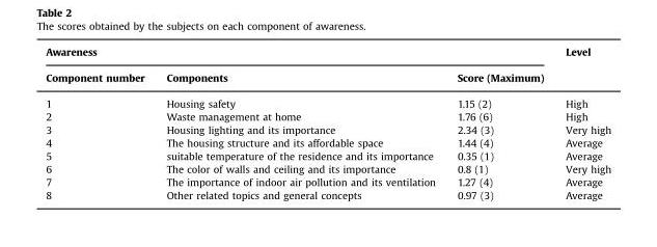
<table><thead><tr><td colspan="3">Awareness</td><td rowspan="2">Level</td></tr><tr><td>Component number</td><td>Components</td><td>Score (Maximum)</td></tr></thead><tbody><tr><td>1</td><td>Housing safety</td><td>1.15 (2)</td><td>High</td></tr><tr><td>2</td><td>Waste management at home</td><td>1.76 (6)</td><td>High</td></tr><tr><td>3</td><td>Housing lighting and its importance</td><td>2.34 (3)</td><td>Very high</td></tr><tr><td>4</td><td>The housing structure and its affordable space</td><td>1.44 (4)</td><td>Average</td></tr><tr><td>5</td><td>suitable temperature of the residence and its importance</td><td>0.35 (1)</td><td>Average</td></tr><tr><td>6</td><td>The color of walls and ceiling and its importance</td><td>0.8 (1)</td><td>Very high</td></tr><tr><td>7</td><td>The importance of indoor air pollution and its ventilation</td><td>1.27 (4)</td><td>Average</td></tr><tr><td>8</td><td>Other related topics and general concepts</td><td>0.97 (3)</td><td>Average</td></tr></tbody></table>